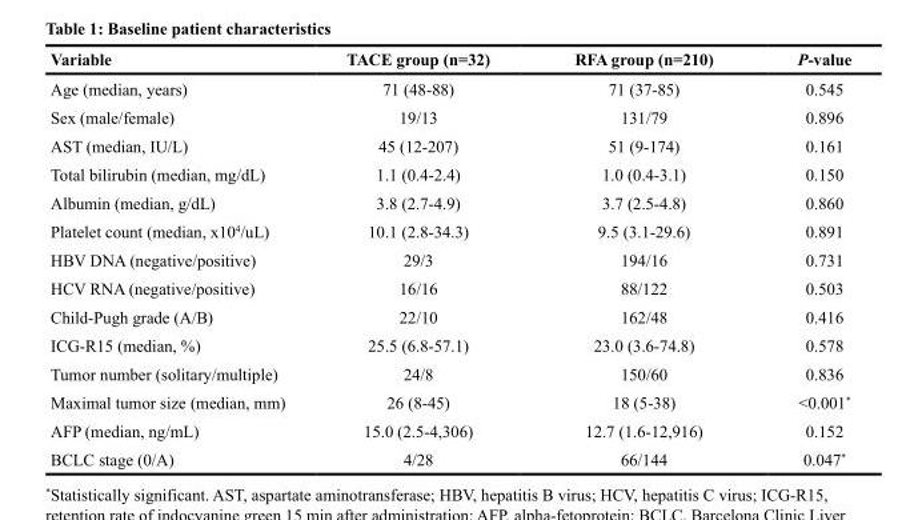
<table><thead><tr><td>Variable</td><td>TACE group (n=32)</td><td>RFA group (n=210)</td><td>P-value</td></tr></thead><tbody><tr><td>Age (median, years)</td><td>71 (48-88)</td><td>71 (37-85)</td><td>0.545</td></tr><tr><td>Sex (male/female)</td><td>19/13</td><td>131/79</td><td>0.896</td></tr><tr><td>AST (median, IU/L)</td><td>45 (12-207)</td><td>51 (9-174)</td><td>0.161</td></tr><tr><td>Total bilirubin (median, mg/dL)</td><td>1.1 (0.4-2.4)</td><td>1.0 (0.4-3.1)</td><td>0.150</td></tr><tr><td>Albumin (median, g/dL)</td><td>3.8 (2.7-4.9)</td><td>3.7 (2.5-4.8)</td><td>0.860</td></tr><tr><td>Platelet count (median, x10<sup>4</sup>/uL)</td><td>10.1 (2.8-34.3)</td><td>9.5 (3.1-29.6)</td><td>0.891</td></tr><tr><td>HBV DNA (negative/positive)</td><td>29/3</td><td>194/16</td><td>0.731</td></tr><tr><td>HCV RNA (negative/positive)</td><td>16/16</td><td>88/122</td><td>0.503</td></tr><tr><td>Child-Pugh grade (A/B)</td><td>22/10</td><td>162/48</td><td>0.416</td></tr><tr><td>ICG-R15 (median, %)</td><td>25.5 (6.8-57.1)</td><td>23.0 (3.6-74.8)</td><td>0.578</td></tr><tr><td>Tumor number (solitary/multiple)</td><td>24/8</td><td>150/60</td><td>0.836</td></tr><tr><td>Maximal tumor size (median, mm)</td><td>26 (8-45)</td><td>18 (5-38)</td><td>&lt;0.001*</td></tr><tr><td>AFP (median, ng/mL)</td><td>15.0 (2.5-4,306)</td><td>12.7 (1.6-12,916)</td><td>0.152</td></tr><tr><td>BCLC stage (0/A)</td><td>4/28</td><td>66/144</td><td>0.047*</td></tr></tbody></table>